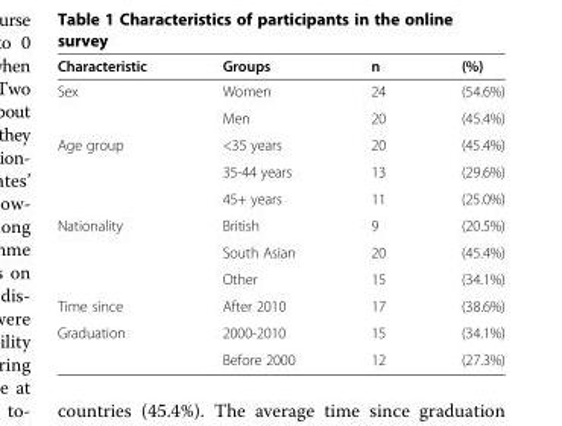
<table><thead><tr><td>Characteristic</td><td>Groups</td><td>n</td><td>(%)</td></tr></thead><tbody><tr><td rowspan="2">Sex</td><td>Women</td><td>24</td><td>(54.6%)</td></tr><tr><td>Men</td><td>20</td><td>(45.4%)</td></tr><tr><td rowspan="3">Age group</td><td>&lt;35 years</td><td>20</td><td>(45.4%)</td></tr><tr><td>35-44 years</td><td>13</td><td>(29.6%)</td></tr><tr><td>45+ years</td><td>11</td><td>(25.0%)</td></tr><tr><td rowspan="3">Nationality</td><td>British</td><td>9</td><td>(20.5%)</td></tr><tr><td>South Asian</td><td>20</td><td>(45.4%)</td></tr><tr><td>Other</td><td>15</td><td>(34.1%)</td></tr><tr><td>Time since</td><td>After 2010</td><td>17</td><td>(38.6%)</td></tr><tr><td rowspan="2">Graduation</td><td>2000-2010</td><td>15</td><td>(34.1%)</td></tr><tr><td>Before 2000</td><td>12</td><td>(27.3%)</td></tr></tbody></table>